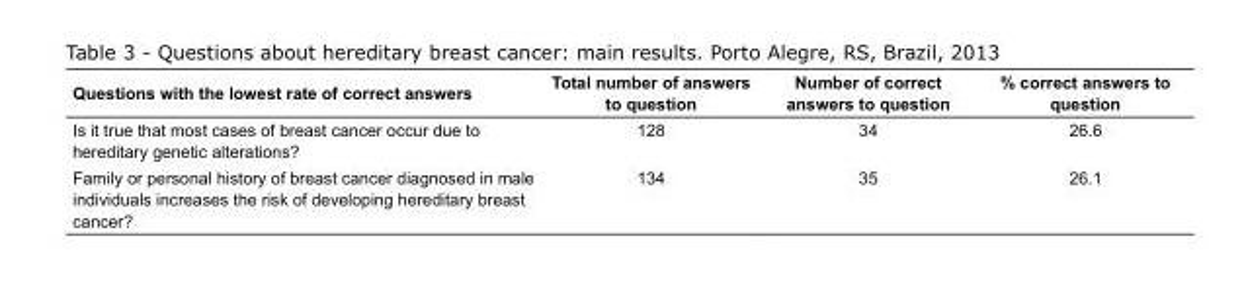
<table><thead><tr><td>Questions with the lowest rate of correct answers</td><td>Total number of answers to question</td><td>Number of correct answers to question</td><td>% correct answers to question</td></tr></thead><tbody><tr><td>Is it true that most cases of breast cancer occur due to hereditary genetic alterations?</td><td>128</td><td>34</td><td>26.6</td></tr><tr><td>Family or personal history of breast cancer diagnosed in male individuals increases the risk of developing hereditary breast cancer?</td><td>134</td><td>35</td><td>26.1</td></tr></tbody></table>